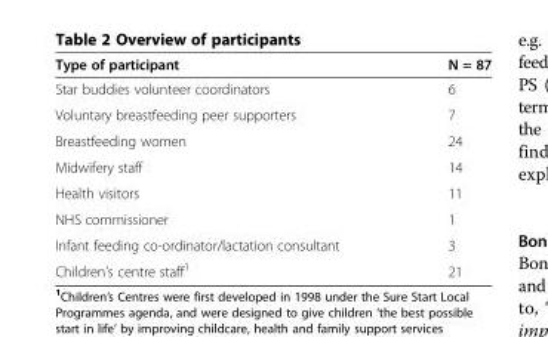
<table><thead><tr><td>Type of participant</td><td>N = 87</td></tr></thead><tbody><tr><td>Star buddies volunteer coordinators</td><td>6</td></tr><tr><td>Voluntary breastfeeding peer supporters</td><td>7</td></tr><tr><td>Breastfeeding women</td><td>24</td></tr><tr><td>Midwifery staff</td><td>14</td></tr><tr><td>Health visitors</td><td>11</td></tr><tr><td>NHS commissioner</td><td>1</td></tr><tr><td>Infant feeding co-ordinator/lactation consultant</td><td>3</td></tr><tr><td>Children’s centre staff<sup>1</sup></td><td>21</td></tr></tbody></table>